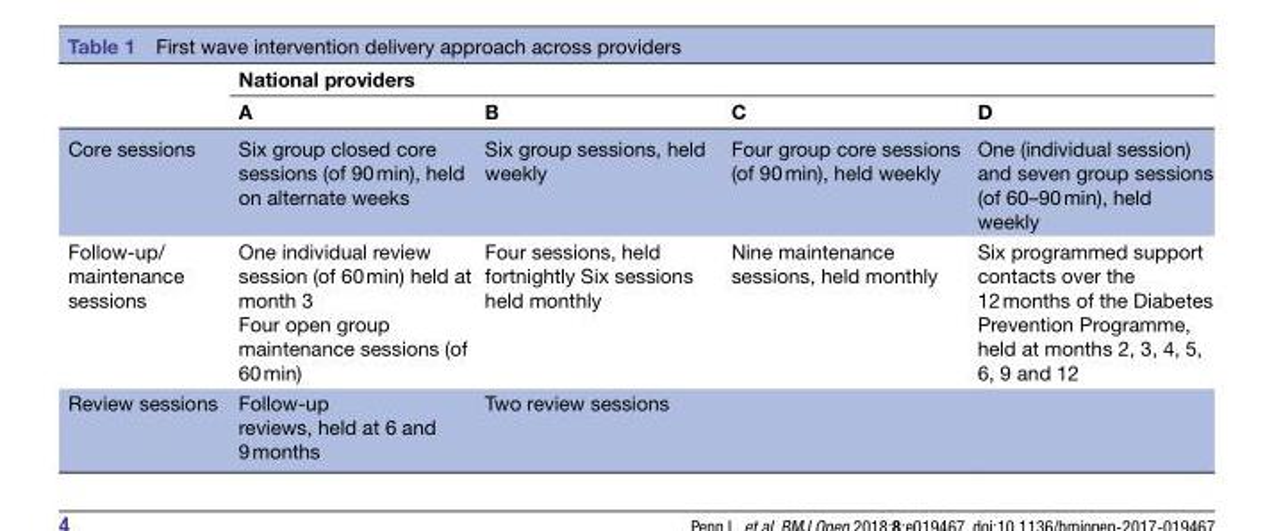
<table><thead><tr><td rowspan="2"></td><td colspan="4">National providers</td></tr><tr><td>A</td><td>B</td><td>C</td><td>D</td></tr></thead><tbody><tr><td>Core sessions</td><td>Six group closed core sessions (of 90 min), held on alternate weeks</td><td>Six group sessions, held weekly</td><td>Four group core sessions (of 90 min), held weekly</td><td>One (individual session) and seven group sessions (of 60–90 min), held weekly</td></tr><tr><td>Follow-up/ maintenance sessions</td><td>One individual review session (of 60 min) held at month 3 Four open group maintenance sessions (of 60 min)</td><td>Four sessions, held fortnightly Six sessions held monthly</td><td>Nine maintenance sessions, held monthly</td><td>Six programmed support contacts over the 12 months of the Diabetes Prevention Programme, held at months 2, 3, 4, 5, 6, 9 and 12</td></tr><tr><td>Review sessions</td><td>Follow-up reviews, held at 6 and 9 months</td><td>Two review sessions</td><td></td><td></td></tr></tbody></table>